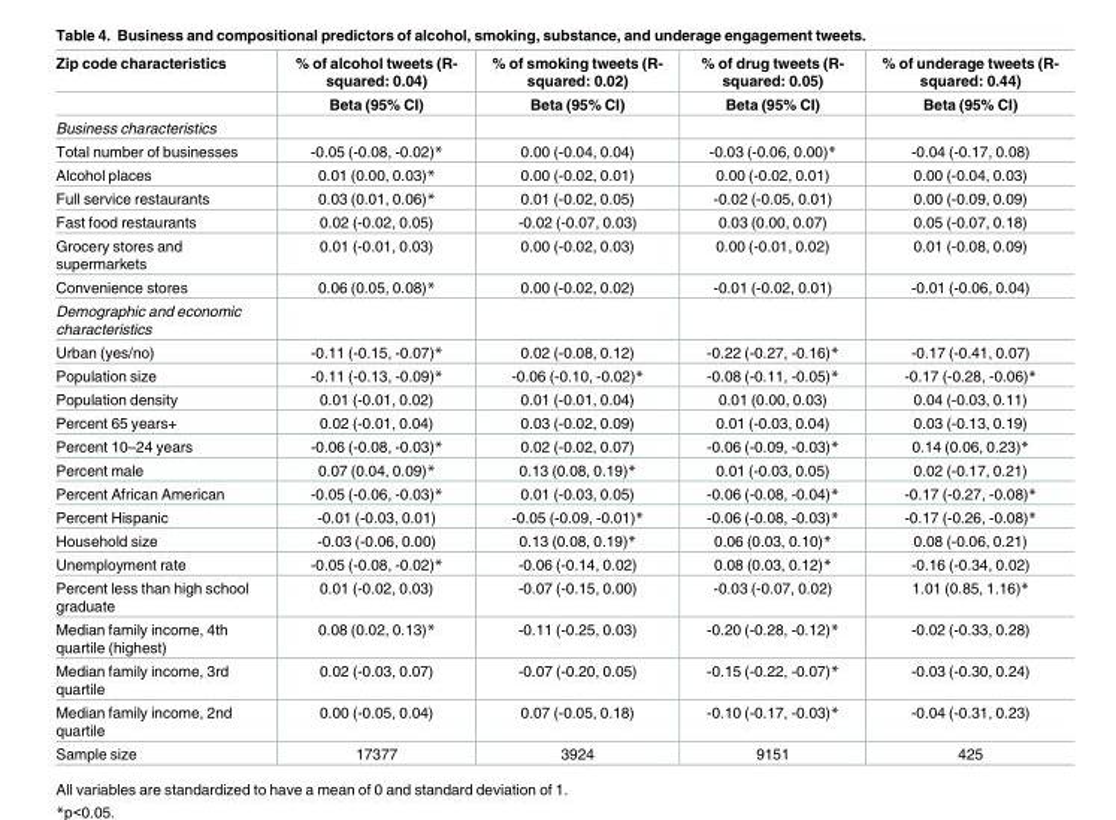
<table><thead><tr><td rowspan="2">Zip code characteristics</td><td rowspan="2">% of alcohol tweets (R- squared: 0.04) Beta (95% CI)</td><td rowspan="2">% of smoking tweets (R- squared: 0.02) Beta (95% CI)</td><td rowspan="2">% of drug tweets (R- squared: 0.05) Beta (95% CI)</td><td rowspan="2">% of underage tweets (R- squared: 0.44) Beta (95% CI)</td></tr><tr></tr></thead><tbody><tr><td colspan="5">Business characteristics</td></tr><tr><td>Total number of businesses</td><td>-0.05 (-0.08, -0.02)*</td><td>0.00 (-0.04, 0.04)</td><td>-0.03 (-0.06, 0.00)*</td><td>-0.04 (-0.17, 0.08)</td></tr><tr><td>Alcohol places</td><td>0.01 (0.00, 0.03)*</td><td>0.00 (-0.02, 0.01)</td><td>0.00 (-0.02, 0.01)</td><td>0.00 (-0.04, 0.03)</td></tr><tr><td>Full service restaurants</td><td>0.03 (0.01, 0.06)*</td><td>0.01 (-0.02, 0.05)</td><td>-0.02 (-0.05, 0.01)</td><td>0.00 (-0.09, 0.09)</td></tr><tr><td>Fast food restaurants</td><td>0.02 (-0.02, 0.05)</td><td>-0.02 (-0.07, 0.03)</td><td>0.03 (0.00, 0.07)</td><td>0.05 (-0.07, 0.18)</td></tr><tr><td>Grocery stores and supermarkets</td><td>0.01 (-0.01, 0.03)</td><td>0.00 (-0.02, 0.03)</td><td>0.00 (-0.01, 0.02)</td><td>0.01 (-0.08, 0.09)</td></tr><tr><td>Convenience stores</td><td>0.06 (0.05, 0.08)*</td><td>0.00 (-0.02, 0.02)</td><td>-0.01 (-0.02, 0.01)</td><td>-0.01 (-0.06, 0.04)</td></tr><tr><td colspan="5">Demographic and economic characteristics</td></tr><tr><td>Urban (yes/no)</td><td>-0.11 (-0.15, -0.07)*</td><td>0.02 (-0.08, 0.12)</td><td>-0.22 (-0.27, -0.16)*</td><td>-0.17 (-0.41, 0.07)</td></tr><tr><td>Population size</td><td>-0.11 (-0.13, -0.09)*</td><td>-0.06 (-0.10, -0.02)*</td><td>-0.08 (-0.11, -0.05)*</td><td>-0.17 (-0.28, -0.06)*</td></tr><tr><td>Population density</td><td>0.01 (-0.01, 0.02)</td><td>0.01 (-0.01, 0.04)</td><td>0.01 (0.00, 0.03)</td><td>0.04 (-0.03, 0.11)</td></tr><tr><td>Percent 65 years+</td><td>0.02 (-0.01, 0.04)</td><td>0.03 (-0.02, 0.09)</td><td>0.01 (-0.03, 0.04)</td><td>0.03 (-0.13, 0.19)</td></tr><tr><td>Percent 10–24 years</td><td>-0.06 (-0.08, -0.03)*</td><td>0.02 (-0.02, 0.07)</td><td>-0.06 (-0.09, -0.03)*</td><td>0.14 (0.06, 0.23)*</td></tr><tr><td>Percent male</td><td>0.07 (0.04, 0.09)*</td><td>0.13 (0.08, 0.19)*</td><td>0.01 (-0.03, 0.05)</td><td>0.02 (-0.17, 0.21)</td></tr><tr><td>Percent African American</td><td>-0.05 (-0.06, -0.03)*</td><td>0.01 (-0.03, 0.05)</td><td>-0.06 (-0.08, -0.04)*</td><td>-0.17 (-0.27, -0.08)*</td></tr><tr><td>Percent Hispanic</td><td>-0.01 (-0.03, 0.01)</td><td>-0.05 (-0.09, -0.01)*</td><td>-0.06 (-0.08, -0.03)*</td><td>-0.17 (-0.26, -0.08)*</td></tr><tr><td>Household size</td><td>-0.03 (-0.06, 0.00)</td><td>0.13 (0.08, 0.19)*</td><td>0.06 (0.03, 0.10)*</td><td>0.08 (-0.06, 0.21)</td></tr><tr><td>Unemployment rate</td><td>-0.05 (-0.08, -0.02)*</td><td>-0.06 (-0.14, 0.02)</td><td>0.08 (0.03, 0.12)*</td><td>-0.16 (-0.34, 0.02)</td></tr><tr><td>Percent less than high school graduate</td><td>0.01 (-0.02, 0.03)</td><td>-0.07 (-0.15, 0.00)</td><td>-0.03 (-0.07, 0.02)</td><td>1.01 (0.85, 1.16)*</td></tr><tr><td>Median family income, 4th quartile (highest)</td><td>0.08 (0.02, 0.13)*</td><td>-0.11 (-0.25, 0.03)</td><td>-0.20 (-0.28, -0.12)*</td><td>-0.02 (-0.33, 0.28)</td></tr><tr><td>Median family income, 3rd quartile</td><td>0.02 (-0.03, 0.07)</td><td>-0.07 (-0.20, 0.05)</td><td>-0.15 (-0.22, -0.07)*</td><td>-0.03 (-0.30, 0.24)</td></tr><tr><td>Median family income, 2nd quartile</td><td>0.00 (-0.05, 0.04)</td><td>0.07 (-0.05, 0.18)</td><td>-0.10 (-0.17, -0.03)*</td><td>-0.04 (-0.31, 0.23)</td></tr><tr><td>Sample size</td><td>17377</td><td>3924</td><td>9151</td><td>425</td></tr></tbody></table>